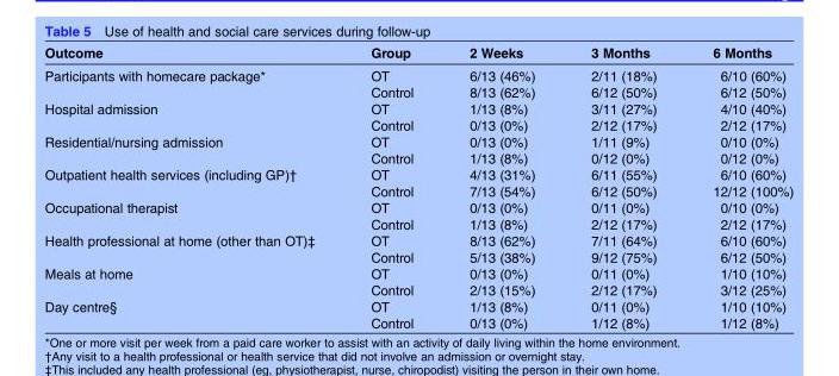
<table><thead><tr><td>Outcome</td><td>Group</td><td>2 Weeks</td><td>3 Months</td><td>6 Months</td></tr></thead><tbody><tr><td rowspan="2">Participants with homecare package*</td><td>OT</td><td>6/13 (46%)</td><td>2/11 (18%)</td><td>6/10 (60%)</td></tr><tr><td>Control</td><td>8/13 (62%)</td><td>6/12 (50%)</td><td>6/12 (50%)</td></tr><tr><td rowspan="2">Hospital admission</td><td>OT</td><td>1/13 (8%)</td><td>3/11 (27%)</td><td>4/10 (40%)</td></tr><tr><td>Control</td><td>0/13 (0%)</td><td>2/12 (17%)</td><td>2/12 (17%)</td></tr><tr><td rowspan="2">Residential/nursing admission</td><td>OT</td><td>0/13 (0%)</td><td>1/11 (9%)</td><td>0/10 (0%)</td></tr><tr><td>Control</td><td>1/13 (8%)</td><td>0/12 (0%)</td><td>0/12 (0%)</td></tr><tr><td rowspan="2">Outpatient health services (including GP)†</td><td>OT</td><td>4/13 (31%)</td><td>6/11 (55%)</td><td>6/10 (60%)</td></tr><tr><td>Control</td><td>7/13 (54%)</td><td>6/12 (50%)</td><td>12/12 (100%)</td></tr><tr><td rowspan="2">Occupational therapist</td><td>OT</td><td>0/13 (0%)</td><td>0/11 (0%)</td><td>0/10 (0%)</td></tr><tr><td>Control</td><td>1/13 (8%)</td><td>2/12 (17%)</td><td>2/12 (17%)</td></tr><tr><td rowspan="2">Health professional at home (other than OT)‡</td><td>OT</td><td>8/13 (62%)</td><td>7/11 (64%)</td><td>6/10 (60%)</td></tr><tr><td>Control</td><td>5/13 (38%)</td><td>9/12 (75%)</td><td>6/12 (50%)</td></tr><tr><td rowspan="2">Meals at home</td><td>OT</td><td>0/13 (0%)</td><td>0/11 (0%)</td><td>1/10 (10%)</td></tr><tr><td>Control</td><td>2/13 (15%)</td><td>2/12 (17%)</td><td>3/12 (25%)</td></tr><tr><td rowspan="2">Day centre§</td><td>OT</td><td>1/13 (8%)</td><td>0/11 (0%)</td><td>1/10 (10%)</td></tr><tr><td>Control</td><td>0/13 (0%)</td><td>1/12 (8%)</td><td>1/12 (8%)</td></tr></tbody></table>